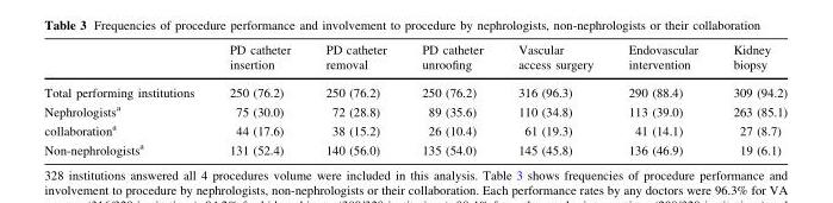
<table><thead><tr><td></td><td>PD catheter insertion</td><td>PD catheter removal</td><td>PD catheter unroofing</td><td>Vascular access surgery</td><td>Endovascular intervention</td><td>Kidney biopsy</td></tr></thead><tbody><tr><td>Total performing institutions</td><td>250 (76.2)</td><td>250 (76.2)</td><td>250 (76.2)</td><td>316 (96.3)</td><td>290 (88.4)</td><td>309 (94.2)</td></tr><tr><td>Nephrologistsa</td><td>75 (30.0)</td><td>72 (28.8)</td><td>89 (35.6)</td><td>110 (34.8)</td><td>113 (39.0)</td><td>263 (85.1)</td></tr><tr><td>collaborationa</td><td>44 (17.6)</td><td>38 (15.2)</td><td>26 (10.4)</td><td>61 (19.3)</td><td>41 (14.1)</td><td>27 (8.7)</td></tr><tr><td>Non-nephrologistsa</td><td>131 (52.4)</td><td>140 (56.0)</td><td>135 (54.0)</td><td>145 (45.8)</td><td>136 (46.9)</td><td>19 (6.1)</td></tr></tbody></table>